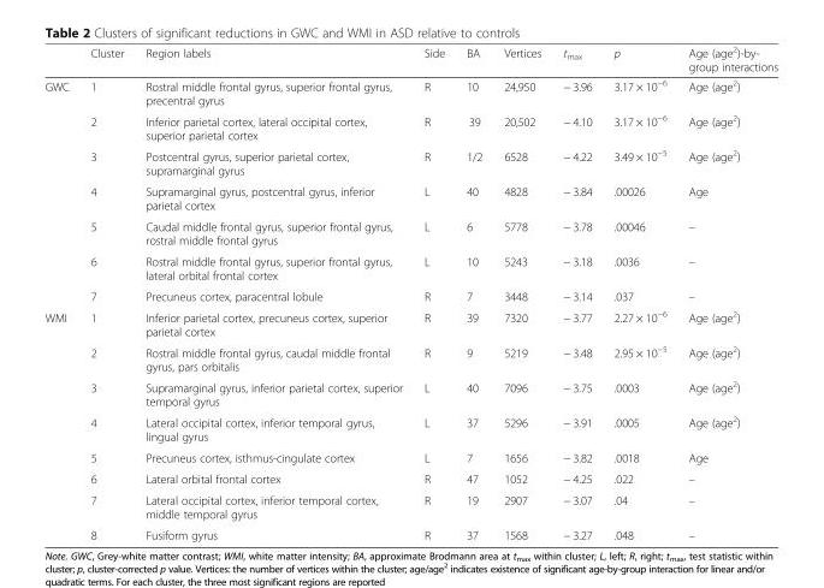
<table><thead><tr><td></td><td>Cluster</td><td>Region labels</td><td>Side</td><td>BA</td><td>Vertices</td><td>t<sub>max</sub></td><td>p</td><td>Age (age<sup>2</sup>)-by- group interactions</td></tr></thead><tbody><tr><td rowspan="7">GWC</td><td>1</td><td>Rostral middle frontal gyrus, superior frontal gyrus, precentral gyrus</td><td>R</td><td>10</td><td>24,950</td><td>− 3.96</td><td>3.17 × 10<sup>−6</sup></td><td>Age (age<sup>2</sup>)</td></tr><tr><td>2</td><td>Inferior parietal cortex, lateral occipital cortex, superior parietal cortex</td><td>R</td><td>39</td><td>20,502</td><td>− 4.10</td><td>3.17 × 10<sup>−6</sup></td><td>Age (age<sup>2</sup>)</td></tr><tr><td>3</td><td>Postcentral gyrus, superior parietal cortex, supramarginal gyrus</td><td>R</td><td>1/2</td><td>6528</td><td>− 4.22</td><td>3.49 × 10<sup>−5</sup></td><td>Age (age<sup>2</sup>)</td></tr><tr><td>4</td><td>Supramarginal gyrus, postcentral gyrus, inferior parietal cortex</td><td>L</td><td>40</td><td>4828</td><td>− 3.84</td><td>.00026</td><td>Age</td></tr><tr><td>5</td><td>Caudal middle frontal gyrus, superior frontal gyrus, rostral middle frontal gyrus</td><td>L</td><td>6</td><td>5778</td><td>− 3.78</td><td>.00046</td><td>–</td></tr><tr><td>6</td><td>Rostral middle frontal gyrus, superior frontal gyrus, lateral orbital frontal cortex</td><td>L</td><td>10</td><td>5243</td><td>− 3.18</td><td>.0036</td><td>–</td></tr><tr><td>7</td><td>Precuneus cortex, paracentral lobule</td><td>R</td><td>7</td><td>3448</td><td>− 3.14</td><td>.037</td><td>–</td></tr><tr><td rowspan="8">WMI</td><td>1</td><td>Inferior parietal cortex, precuneus cortex, superior parietal cortex</td><td>R</td><td>39</td><td>7320</td><td>− 3.77</td><td>2.27 × 10<sup>−6</sup></td><td>Age (age<sup>2</sup>)</td></tr><tr><td>2</td><td>Rostral middle frontal gyrus, caudal middle frontal gyrus, pars orbitalis</td><td>R</td><td>9</td><td>5219</td><td>− 3.48</td><td>2.95 × 10<sup>−5</sup></td><td>Age (age<sup>2</sup>)</td></tr><tr><td>3</td><td>Supramarginal gyrus, inferior parietal cortex, superior temporal gyrus</td><td>L</td><td>40</td><td>7096</td><td>− 3.75</td><td>.0003</td><td>Age (age<sup>2</sup>)</td></tr><tr><td>4</td><td>Lateral occipital cortex, inferior temporal gyrus, lingual gyrus</td><td>L</td><td>37</td><td>5296</td><td>− 3.91</td><td>.0005</td><td>Age (age<sup>2</sup>)</td></tr><tr><td>5</td><td>Precuneus cortex, isthmus-cingulate cortex</td><td>L</td><td>7</td><td>1656</td><td>− 3.82</td><td>.0018</td><td>Age</td></tr><tr><td>6</td><td>Lateral orbital frontal cortex</td><td>R</td><td>47</td><td>1052</td><td>− 4.25</td><td>.022</td><td>–</td></tr><tr><td>7</td><td>Lateral occipital cortex, inferior temporal cortex, middle temporal gyrus</td><td>R</td><td>19</td><td>2907</td><td>− 3.07</td><td>.04</td><td>–</td></tr><tr><td>8</td><td>Fusiform gyrus</td><td>R</td><td>37</td><td>1568</td><td>− 3.27</td><td>.048</td><td>–</td></tr></tbody></table>